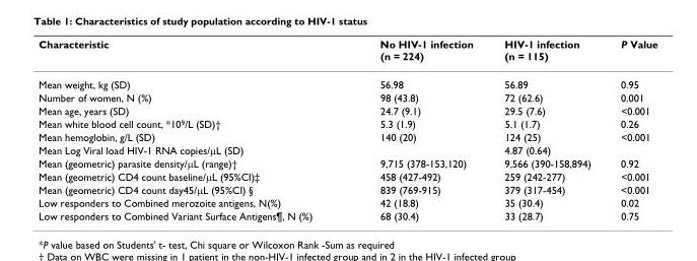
<table><thead><tr><td>Characteristic</td><td>No HIV-1 infection (n = 224)</td><td>HIV-1 infection (n = 115)</td><td>P Value</td></tr></thead><tbody><tr><td>Mean weight, kg (SD)</td><td>56.98</td><td>56.89</td><td>0.95</td></tr><tr><td>Number of women, N (%)</td><td>98 (43.8)</td><td>72 (62.6)</td><td>0.001</td></tr><tr><td>Mean age, years (SD)</td><td>24.7 (9.1)</td><td>29.5 (7.6)</td><td>&lt;0.001</td></tr><tr><td>Mean white blood cell count, *10<sup>9</sup>/L (SD)†</td><td>5.3 (1.9)</td><td>5.1 (1.7)</td><td>0.26</td></tr><tr><td>Mean hemoglobin, g/L (SD)</td><td>140 (20)</td><td>124 (25)</td><td>&lt;0.001</td></tr><tr><td>Mean Log Viral load HIV-1 RNA copies/μL (SD)</td><td></td><td>4.87 (0.64)</td><td></td></tr><tr><td>Mean (geometric) parasite density/μL (range)†</td><td>9,715 (378-153,120)</td><td>9,566 (390-158,894)</td><td>0.92</td></tr><tr><td>Mean (geometric) CD4 count baseline/μL (95%CI)‡</td><td>458 (427-492)</td><td>259 (242-277)</td><td>&lt;0.001</td></tr><tr><td>Mean (geometric) CD4 count day45/μL (95%CI) §</td><td>839 (769-915)</td><td>379 (317-454)</td><td>&lt;0.001</td></tr><tr><td>Low responders to Combined merozoite antigens, N(%)</td><td>42 (18.8)</td><td>35 (30.4)</td><td>0.02</td></tr><tr><td>Low responders to Combined Variant Surface Antigens¶, N (%)</td><td>68 (30.4)</td><td>33 (28.7)</td><td>0.75</td></tr></tbody></table>